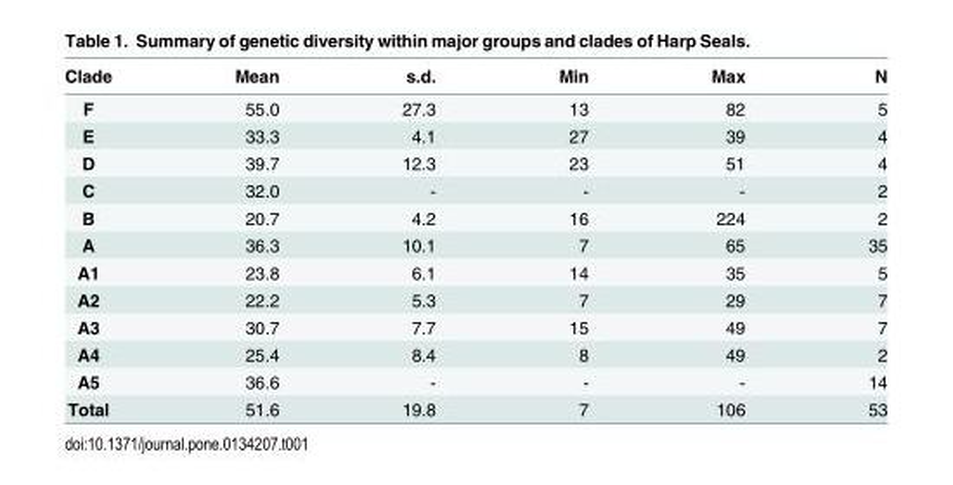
<table><thead><tr><td>Clade</td><td>Mean</td><td>s.d.</td><td>Min</td><td>Max</td><td>N</td></tr></thead><tbody><tr><td>F</td><td>55.0</td><td>27.3</td><td>13</td><td>82</td><td>5</td></tr><tr><td>E</td><td>33.3</td><td>4.1</td><td>27</td><td>39</td><td>4</td></tr><tr><td>D</td><td>39.7</td><td>12.3</td><td>23</td><td>51</td><td>4</td></tr><tr><td>C</td><td>32.0</td><td>-</td><td>-</td><td>-</td><td>2</td></tr><tr><td>B</td><td>20.7</td><td>4.2</td><td>16</td><td>224</td><td>2</td></tr><tr><td>A</td><td>36.3</td><td>10.1</td><td>7</td><td>65</td><td>35</td></tr><tr><td>A1</td><td>23.8</td><td>6.1</td><td>14</td><td>35</td><td>5</td></tr><tr><td>A2</td><td>22.2</td><td>5.3</td><td>7</td><td>29</td><td>7</td></tr><tr><td>A3</td><td>30.7</td><td>7.7</td><td>15</td><td>49</td><td>7</td></tr><tr><td>A4</td><td>25.4</td><td>8.4</td><td>8</td><td>49</td><td>2</td></tr><tr><td>A5</td><td>36.6</td><td>-</td><td>-</td><td>-</td><td>14</td></tr><tr><td>Total</td><td>51.6</td><td>19.8</td><td>7</td><td>106</td><td>53</td></tr></tbody></table>